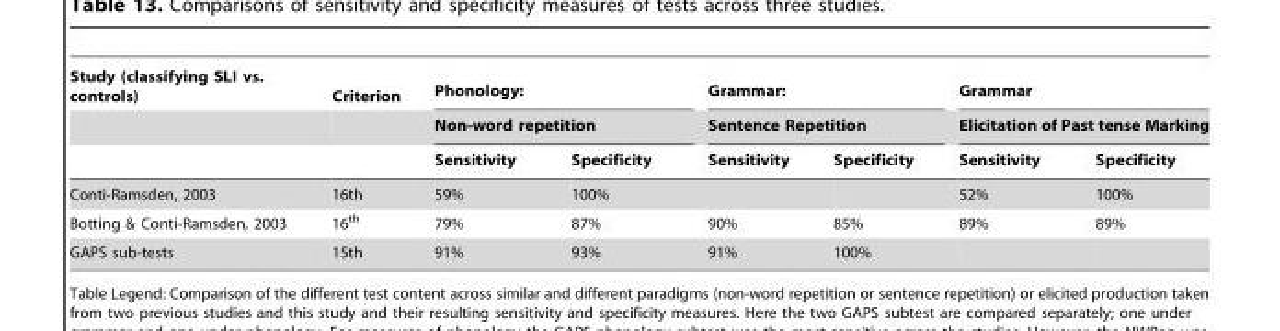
<table><thead><tr><td rowspan="3">Study (classifying SLI vs. controls)</td><td rowspan="3">Criterion</td><td rowspan="2" colspan="2">Phonology: Non-word repetition</td><td rowspan="2" colspan="2">Grammar: Sentence Repetition</td><td rowspan="2" colspan="2">Grammar Elicitation of Past tense Marking</td></tr><tr></tr><tr><td>Sensitivity</td><td>Specificity</td><td>Sensitivity</td><td>Specificity</td><td>Sensitivity</td><td>Specificity</td></tr></thead><tbody><tr><td>Conti-Ramsden, 2003</td><td>16th</td><td>59%</td><td>100%</td><td></td><td></td><td>52%</td><td>100%</td></tr><tr><td>Botting &amp; Conti-Ramsden, 2003</td><td>16<sup>th</sup></td><td>79%</td><td>87%</td><td>90%</td><td>85%</td><td>89%</td><td>89%</td></tr><tr><td>GAPS sub-tests</td><td>15th</td><td>91%</td><td>93%</td><td>91%</td><td>100%</td><td></td><td></td></tr></tbody></table>